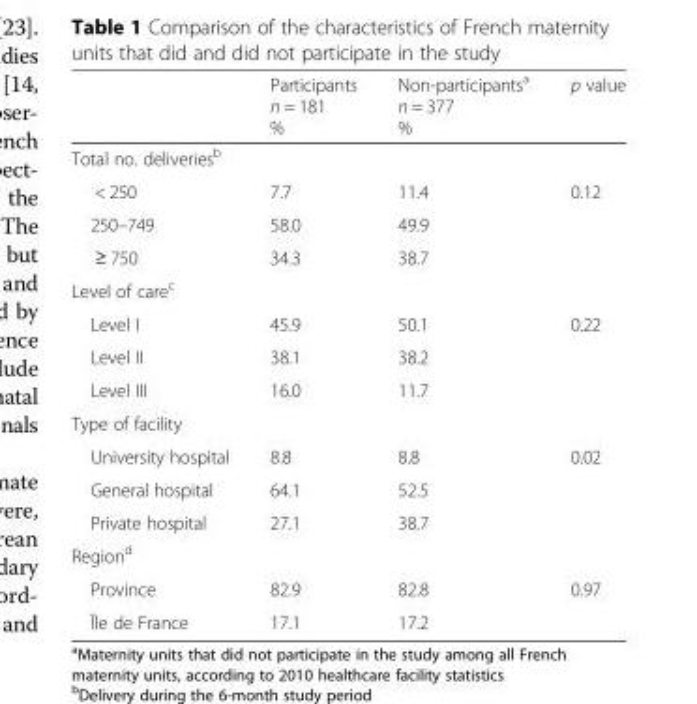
<table><thead><tr><td></td><td>Participants n = 181 %</td><td>Non-participants<sup>a</sup> n = 377 %</td><td>p value</td></tr></thead><tbody><tr><td colspan="4">Total no. deliveries<sup>b</sup></td></tr><tr><td>&lt; 250</td><td>7.7</td><td>11.4</td><td>0.12</td></tr><tr><td>250–749</td><td>58.0</td><td>49.9</td><td></td></tr><tr><td>≥ 750</td><td>34.3</td><td>38.7</td><td></td></tr><tr><td colspan="4">Level of care<sup>c</sup></td></tr><tr><td>Level I</td><td>45.9</td><td>50.1</td><td>0.22</td></tr><tr><td>Level II</td><td>38.1</td><td>38.2</td><td></td></tr><tr><td>Level III</td><td>16.0</td><td>11.7</td><td></td></tr><tr><td colspan="4">Type of facility</td></tr><tr><td>University hospital</td><td>8.8</td><td>8.8</td><td>0.02</td></tr><tr><td>General hospital</td><td>64.1</td><td>52.5</td><td></td></tr><tr><td>Private hospital</td><td>27.1</td><td>38.7</td><td></td></tr><tr><td colspan="4">Region<sup>d</sup></td></tr><tr><td>Province</td><td>82.9</td><td>82.8</td><td>0.97</td></tr><tr><td>Île de France</td><td>17.1</td><td>17.2</td><td></td></tr></tbody></table>